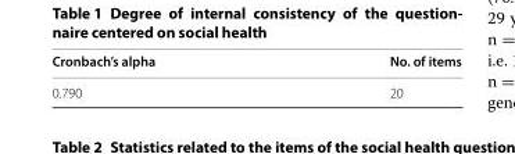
<table><thead><tr><td>Cronbach’s alpha</td><td>No. of items</td></tr></thead><tbody><tr><td>0.790</td><td>20</td></tr></tbody></table>